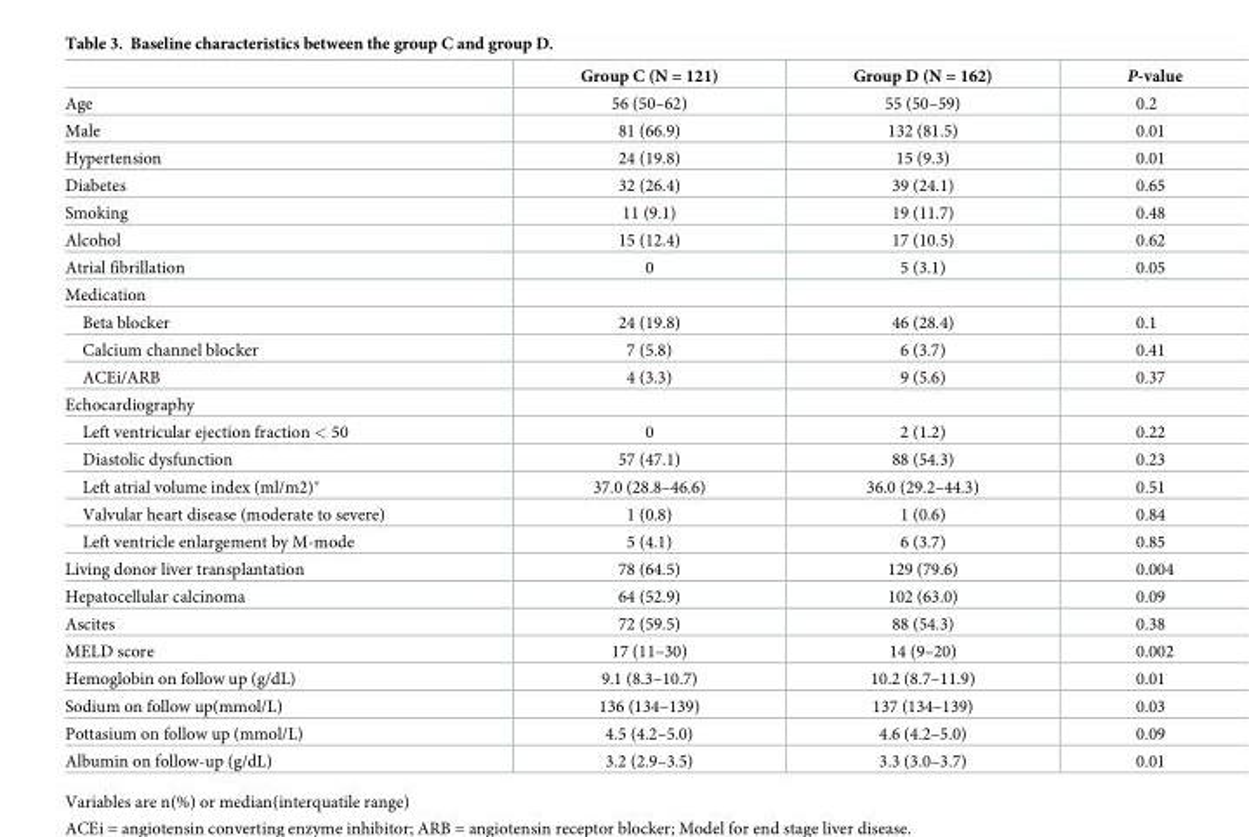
<table><thead><tr><td></td><td>Group C (N = 121)</td><td>Group D (N = 162)</td><td>P-value</td></tr></thead><tbody><tr><td>Age</td><td>56 (50–62)</td><td>55 (50–59)</td><td>0.2</td></tr><tr><td>Male</td><td>81 (66.9)</td><td>132 (81.5)</td><td>0.01</td></tr><tr><td>Hypertension</td><td>24 (19.8)</td><td>15 (9.3)</td><td>0.01</td></tr><tr><td>Diabetes</td><td>32 (26.4)</td><td>39 (24.1)</td><td>0.65</td></tr><tr><td>Smoking</td><td>11 (9.1)</td><td>19 (11.7)</td><td>0.48</td></tr><tr><td>Alcohol</td><td>15 (12.4)</td><td>17 (10.5)</td><td>0.62</td></tr><tr><td>Atrial fibrillation</td><td>0</td><td>5 (3.1)</td><td>0.05</td></tr><tr><td colspan="4">Medication</td></tr><tr><td>Beta blocker</td><td>24 (19.8)</td><td>46 (28.4)</td><td>0.1</td></tr><tr><td>Calcium channel blocker</td><td>7 (5.8)</td><td>6 (3.7)</td><td>0.41</td></tr><tr><td>ACEi/ARB</td><td>4 (3.3)</td><td>9 (5.6)</td><td>0.37</td></tr><tr><td colspan="4">Echocardiography</td></tr><tr><td>Left ventricular ejection fraction &lt; 50</td><td>0</td><td>2 (1.2)</td><td>0.22</td></tr><tr><td>Diastolic dysfunction</td><td>57 (47.1)</td><td>88 (54.3)</td><td>0.23</td></tr><tr><td>Left atrial volume index (ml/m2)*</td><td>37.0 (28.8–46.6)</td><td>36.0 (29.2–44.3)</td><td>0.51</td></tr><tr><td>Valvular heart disease (moderate to severe)</td><td>1 (0.8)</td><td>1 (0.6)</td><td>0.84</td></tr><tr><td>Left ventricle enlargement by M-mode</td><td>5 (4.1)</td><td>6 (3.7)</td><td>0.85</td></tr><tr><td>Living donor liver transplantation</td><td>78 (64.5)</td><td>129 (79.6)</td><td>0.004</td></tr><tr><td>Hepatocellular calcinoma</td><td>64 (52.9)</td><td>102 (63.0)</td><td>0.09</td></tr><tr><td>Ascites</td><td>72 (59.5)</td><td>88 (54.3)</td><td>0.38</td></tr><tr><td>MELD score</td><td>17 (11–30)</td><td>14 (9–20)</td><td>0.002</td></tr><tr><td>Hemoglobin on follow up (g/dL)</td><td>9.1 (8.3–10.7)</td><td>10.2 (8.7–11.9)</td><td>0.01</td></tr><tr><td>Sodium on follow up(mmol/L)</td><td>136 (134–139)</td><td>137 (134–139)</td><td>0.03</td></tr><tr><td>Pottasium on follow up (mmol/L)</td><td>4.5 (4.2–5.0)</td><td>4.6 (4.2–5.0)</td><td>0.09</td></tr><tr><td>Albumin on follow-up (g/dL)</td><td>3.2 (2.9–3.5)</td><td>3.3 (3.0–3.7)</td><td>0.01</td></tr></tbody></table>